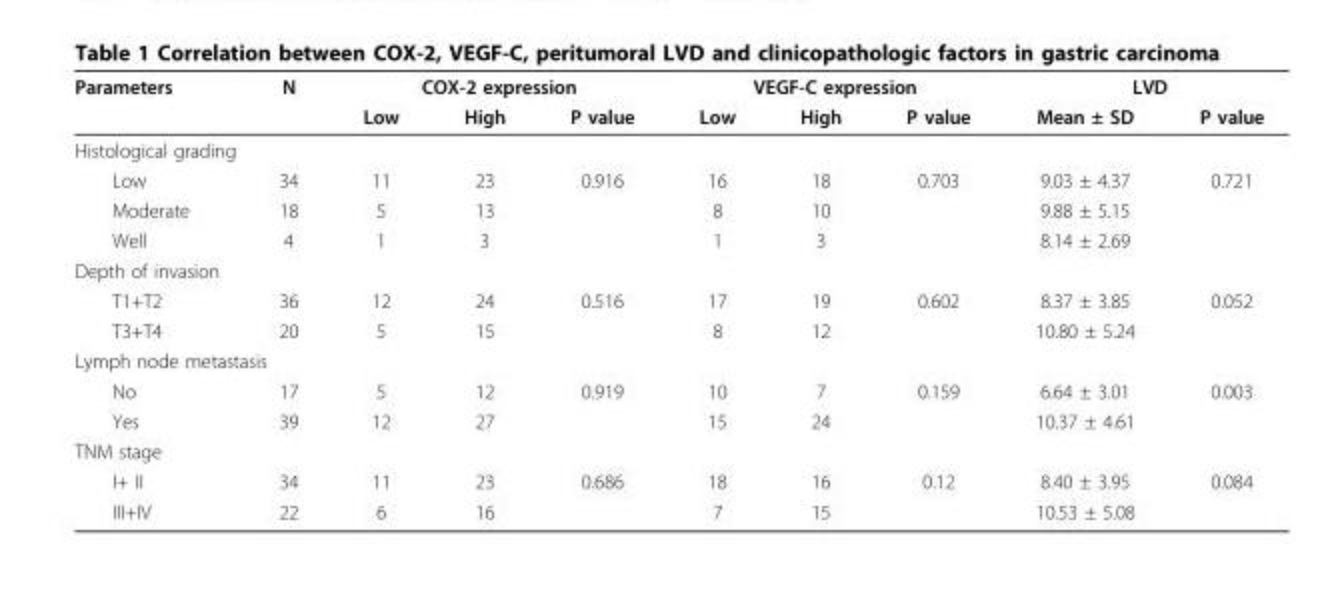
<table><thead><tr><td rowspan="2">Parameters</td><td rowspan="2">N</td><td colspan="3">COX-2 expression</td><td colspan="3">VEGF-C expression</td><td colspan="2">LVD</td></tr><tr><td>Low</td><td>High</td><td>P value</td><td>Low</td><td>High</td><td>P value</td><td>Mean ± SD</td><td>P value</td></tr></thead><tbody><tr><td colspan="10">Histological grading</td></tr><tr><td>Low</td><td>34</td><td>11</td><td>23</td><td>0.916</td><td>16</td><td>18</td><td>0.703</td><td>9.03 ± 4.37</td><td>0.721</td></tr><tr><td>Moderate</td><td>18</td><td>5</td><td>13</td><td></td><td>8</td><td>10</td><td></td><td>9.88 ± 5.15</td><td></td></tr><tr><td>Well</td><td>4</td><td>1</td><td>3</td><td></td><td>1</td><td>3</td><td></td><td>8.14 ± 2.69</td><td></td></tr><tr><td colspan="10">Depth of invasion</td></tr><tr><td>T1+T2</td><td>36</td><td>12</td><td>24</td><td>0.516</td><td>17</td><td>19</td><td>0.602</td><td>8.37 ± 3.85</td><td>0.052</td></tr><tr><td>T3+T4</td><td>20</td><td>5</td><td>15</td><td></td><td>8</td><td>12</td><td></td><td>10.80 ± 5.24</td><td></td></tr><tr><td colspan="10">Lymph node metastasis</td></tr><tr><td>No</td><td>17</td><td>5</td><td>12</td><td>0.919</td><td>10</td><td>7</td><td>0.159</td><td>6.64 ± 3.01</td><td>0.003</td></tr><tr><td>Yes</td><td>39</td><td>12</td><td>27</td><td></td><td>15</td><td>24</td><td></td><td>10.37 ± 4.61</td><td></td></tr><tr><td colspan="10">TNM stage</td></tr><tr><td>I+ II</td><td>34</td><td>11</td><td>23</td><td>0.686</td><td>18</td><td>16</td><td>0.12</td><td>8.40 ± 3.95</td><td>0.084</td></tr><tr><td>III+IV</td><td>22</td><td>6</td><td>16</td><td></td><td>7</td><td>15</td><td></td><td>10.53 ± 5.08</td><td></td></tr></tbody></table>